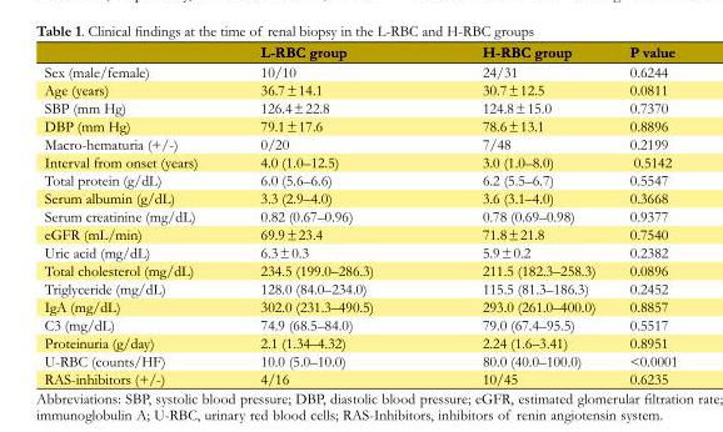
<table><thead><tr><td></td><td>L-RBC group</td><td>H-RBC group</td><td>P value</td></tr></thead><tbody><tr><td>Sex (male/female)</td><td>10/10</td><td>24/31</td><td>0.6244</td></tr><tr><td>Age (years)</td><td>36.7 ± 14.1</td><td>30.7 ± 12.5</td><td>0.0811</td></tr><tr><td>SBP (mm Hg)</td><td>126.4 ± 22.8</td><td>124.8 ± 15.0</td><td>0.7370</td></tr><tr><td>DBP (mm Hg)</td><td>79.1 ± 17.6</td><td>78.6 ± 13.1</td><td>0.8896</td></tr><tr><td>Macro-hematuria (+/-)</td><td>0/20</td><td>7/48</td><td>0.2199</td></tr><tr><td>Interval from onset (years)</td><td>4.0 (1.0–12.5)</td><td>3.0 (1.0–8.0)</td><td>0.5142</td></tr><tr><td>Total protein (g/dL)</td><td>6.0 (5.6–6.6)</td><td>6.2 (5.5–6.7)</td><td>0.5547</td></tr><tr><td>Serum albumin (g/dL)</td><td>3.3 (2.9–4.0)</td><td>3.6 (3.1–4.0)</td><td>0.3668</td></tr><tr><td>Serum creatinine (mg/dL)</td><td>0.82 (0.67–0.96)</td><td>0.78 (0.69–0.98)</td><td>0.9377</td></tr><tr><td>eGFR (mL/min)</td><td>69.9 ± 23.4</td><td>71.8 ± 21.8</td><td>0.7540</td></tr><tr><td>Uric acid (mg/dL)</td><td>6.3 ± 0.3</td><td>5.9 ± 0.2</td><td>0.2382</td></tr><tr><td>Total cholesterol (mg/dL)</td><td>234.5 (199.0–286.3)</td><td>211.5 (182.3–258.3)</td><td>0.0896</td></tr><tr><td>Triglyceride (mg/dL)</td><td>128.0 (84.0–234.0)</td><td>115.5 (81.3–186.3)</td><td>0.2452</td></tr><tr><td>IgA (mg/dL)</td><td>302.0 (231.3–490.5)</td><td>293.0 (261.0–400.0)</td><td>0.8857</td></tr><tr><td>C3 (mg/dL)</td><td>74.9 (68.5–84.0)</td><td>79.0 (67.4–95.5)</td><td>0.5517</td></tr><tr><td>Proteinuria (g/day)</td><td>2.1 (1.34–4.32)</td><td>2.24 (1.6–3.41)</td><td>0.8951</td></tr><tr><td>U-RBC (counts/HF)</td><td>10.0 (5.0–10.0)</td><td>80.0 (40.0–100.0)</td><td>&lt;0.0001</td></tr><tr><td>RAS-inhibitors (+/-)</td><td>4/16</td><td>10/45</td><td>0.6235</td></tr></tbody></table>